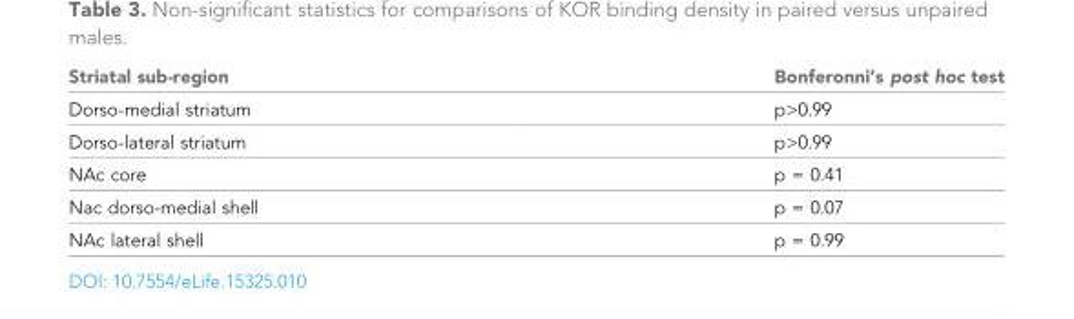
<table><thead><tr><td>Striatal sub-region</td><td>Bonferonni’s post hoc test</td></tr></thead><tbody><tr><td>Dorso-medial striatum</td><td>p&gt;0.99</td></tr><tr><td>Dorso-lateral striatum</td><td>p&gt;0.99</td></tr><tr><td>NAc core</td><td>p = 0.41</td></tr><tr><td>Nac dorso-medial shell</td><td>p = 0.07</td></tr><tr><td>NAc lateral shell</td><td>p = 0.99</td></tr></tbody></table>